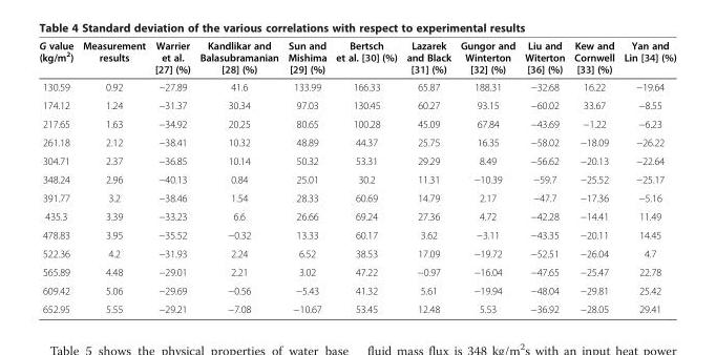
<table><thead><tr><td>G value (kg/m<sup>2</sup>)</td><td>Measurement results</td><td>Warrier et al. [27] (%)</td><td>Kandlikar and Balasubramanian [28] (%)</td><td>Sun and Mishima [29] (%)</td><td>Bertsch et al. [30] (%)</td><td>Lazarek and Black [31] (%)</td><td>Gungor and Winterton [32] (%)</td><td>Liu and Witerton [36] (%)</td><td>Kew and Cornwell [33] (%)</td><td>Yan and Lin [34] (%)</td></tr></thead><tbody><tr><td>130.59</td><td>0.92</td><td>−27.89</td><td>41.6</td><td>133.99</td><td>166.33</td><td>65.87</td><td>188.31</td><td>−32.68</td><td>16.22</td><td>−19.64</td></tr><tr><td>174.12</td><td>1.24</td><td>−31.37</td><td>30.34</td><td>97.03</td><td>130.45</td><td>60.27</td><td>93.15</td><td>−60.02</td><td>33.67</td><td>−8.55</td></tr><tr><td>217.65</td><td>1.63</td><td>−34.92</td><td>20.25</td><td>80.65</td><td>100.28</td><td>45.09</td><td>67.84</td><td>−43.69</td><td>−1.22</td><td>−6.23</td></tr><tr><td>261.18</td><td>2.12</td><td>−38.41</td><td>10.32</td><td>48.89</td><td>44.37</td><td>25.75</td><td>16.35</td><td>−58.02</td><td>−18.09</td><td>−26.22</td></tr><tr><td>304.71</td><td>2.37</td><td>−36.85</td><td>10.14</td><td>50.32</td><td>53.31</td><td>29.29</td><td>8.49</td><td>−56.62</td><td>−20.13</td><td>−22.64</td></tr><tr><td>348.24</td><td>2.96</td><td>−40.13</td><td>0.84</td><td>25.01</td><td>30.2</td><td>11.31</td><td>−10.39</td><td>−59.7</td><td>−25.52</td><td>−25.17</td></tr><tr><td>391.77</td><td>3.2</td><td>−38.46</td><td>1.54</td><td>28.33</td><td>60.69</td><td>14.79</td><td>2.17</td><td>−47.7</td><td>−17.36</td><td>−5.16</td></tr><tr><td>435.3</td><td>3.39</td><td>−33.23</td><td>6.6</td><td>26.66</td><td>69.24</td><td>27.36</td><td>4.72</td><td>−42.28</td><td>−14.41</td><td>11.49</td></tr><tr><td>478.83</td><td>3.95</td><td>−35.52</td><td>−0.32</td><td>13.33</td><td>60.17</td><td>3.62</td><td>−3.11</td><td>−43.35</td><td>−20.11</td><td>14.45</td></tr><tr><td>522.36</td><td>4.2</td><td>−31.93</td><td>2.24</td><td>6.52</td><td>38.53</td><td>17.09</td><td>−19.72</td><td>−52.51</td><td>−26.04</td><td>4.7</td></tr><tr><td>565.89</td><td>4.48</td><td>−29.01</td><td>2.21</td><td>3.02</td><td>47.22</td><td>−0.97</td><td>−16.04</td><td>−47.65</td><td>−25.47</td><td>22.78</td></tr><tr><td>609.42</td><td>5.06</td><td>−29.69</td><td>−0.56</td><td>−5.43</td><td>41.32</td><td>5.61</td><td>−19.94</td><td>−48.04</td><td>−29.81</td><td>25.42</td></tr><tr><td>652.95</td><td>5.55</td><td>−29.21</td><td>−7.08</td><td>−10.67</td><td>53.45</td><td>12.48</td><td>5.53</td><td>−36.92</td><td>−28.05</td><td>29.41</td></tr></tbody></table>